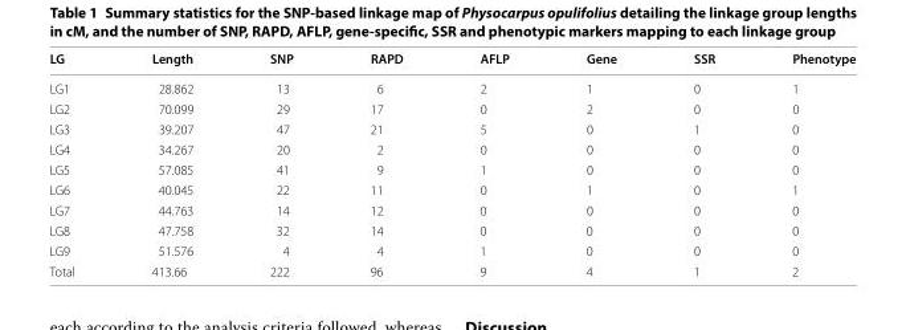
<table><thead><tr><td>LG</td><td>Length</td><td>SNP</td><td>RAPD</td><td>AFLP</td><td>Gene</td><td>SSR</td><td>Phenotype</td></tr></thead><tbody><tr><td>LG1</td><td>28.862</td><td>13</td><td>6</td><td>2</td><td>1</td><td>0</td><td>1</td></tr><tr><td>LG2</td><td>70.099</td><td>29</td><td>17</td><td>0</td><td>2</td><td>0</td><td>0</td></tr><tr><td>LG3</td><td>39.207</td><td>47</td><td>21</td><td>5</td><td>0</td><td>1</td><td>0</td></tr><tr><td>LG4</td><td>34.267</td><td>20</td><td>2</td><td>0</td><td>0</td><td>0</td><td>0</td></tr><tr><td>LG5</td><td>57.085</td><td>41</td><td>9</td><td>1</td><td>0</td><td>0</td><td>0</td></tr><tr><td>LG6</td><td>40.045</td><td>22</td><td>11</td><td>0</td><td>1</td><td>0</td><td>1</td></tr><tr><td>LG7</td><td>44.763</td><td>14</td><td>12</td><td>0</td><td>0</td><td>0</td><td>0</td></tr><tr><td>LG8</td><td>47.758</td><td>32</td><td>14</td><td>0</td><td>0</td><td>0</td><td>0</td></tr><tr><td>LG9</td><td>51.576</td><td>4</td><td>4</td><td>1</td><td>0</td><td>0</td><td>0</td></tr><tr><td>Total</td><td>413.66</td><td>222</td><td>96</td><td>9</td><td>4</td><td>1</td><td>2</td></tr></tbody></table>